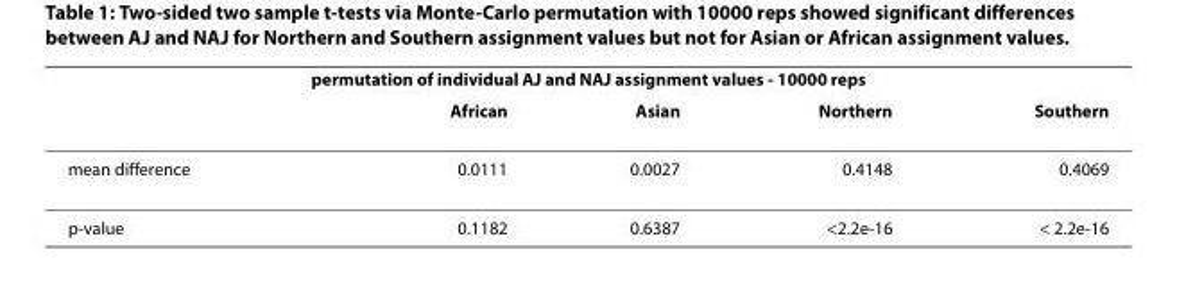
<table><thead><tr><td colspan="5">permutation of individual AJ and NAJ assignment values - 10000 reps</td></tr><tr><td></td><td>African</td><td>Asian</td><td>Northern</td><td>Southern</td></tr></thead><tbody><tr><td>mean difference</td><td>0.0111</td><td>0.0027</td><td>0.4148</td><td>0.4069</td></tr><tr><td>p-value</td><td>0.1182</td><td>0.6387</td><td>&lt;2.2e-16</td><td>&lt; 2.2e-16</td></tr></tbody></table>